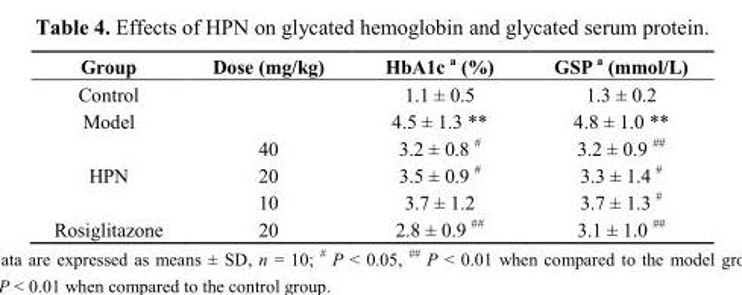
<table><thead><tr><td>Group</td><td>Dose (mg/kg)</td><td>HbA1c <sup>a</sup> (%)</td><td>GSP <sup>a</sup> (mmol/L)</td></tr></thead><tbody><tr><td>Control</td><td></td><td>1.1 ± 0.5</td><td>1.3 ± 0.2</td></tr><tr><td>Model</td><td></td><td>4.5 ± 1.3 **</td><td>4.8 ± 1.0 **</td></tr><tr><td rowspan="3">HPN</td><td>40</td><td>3.2 ± 0.8 <sup>#</sup></td><td>3.2 ± 0.9 <sup>##</sup></td></tr><tr><td>20</td><td>3.5 ± 0.9 <sup>#</sup></td><td>3.3 ± 1.4 <sup>#</sup></td></tr><tr><td>10</td><td>3.7 ± 1.2</td><td>3.7 ± 1.3 <sup>#</sup></td></tr><tr><td>Rosiglitazone</td><td>20</td><td>2.8 ± 0.9 <sup>##</sup></td><td>3.1 ± 1.0 <sup>##</sup></td></tr></tbody></table>